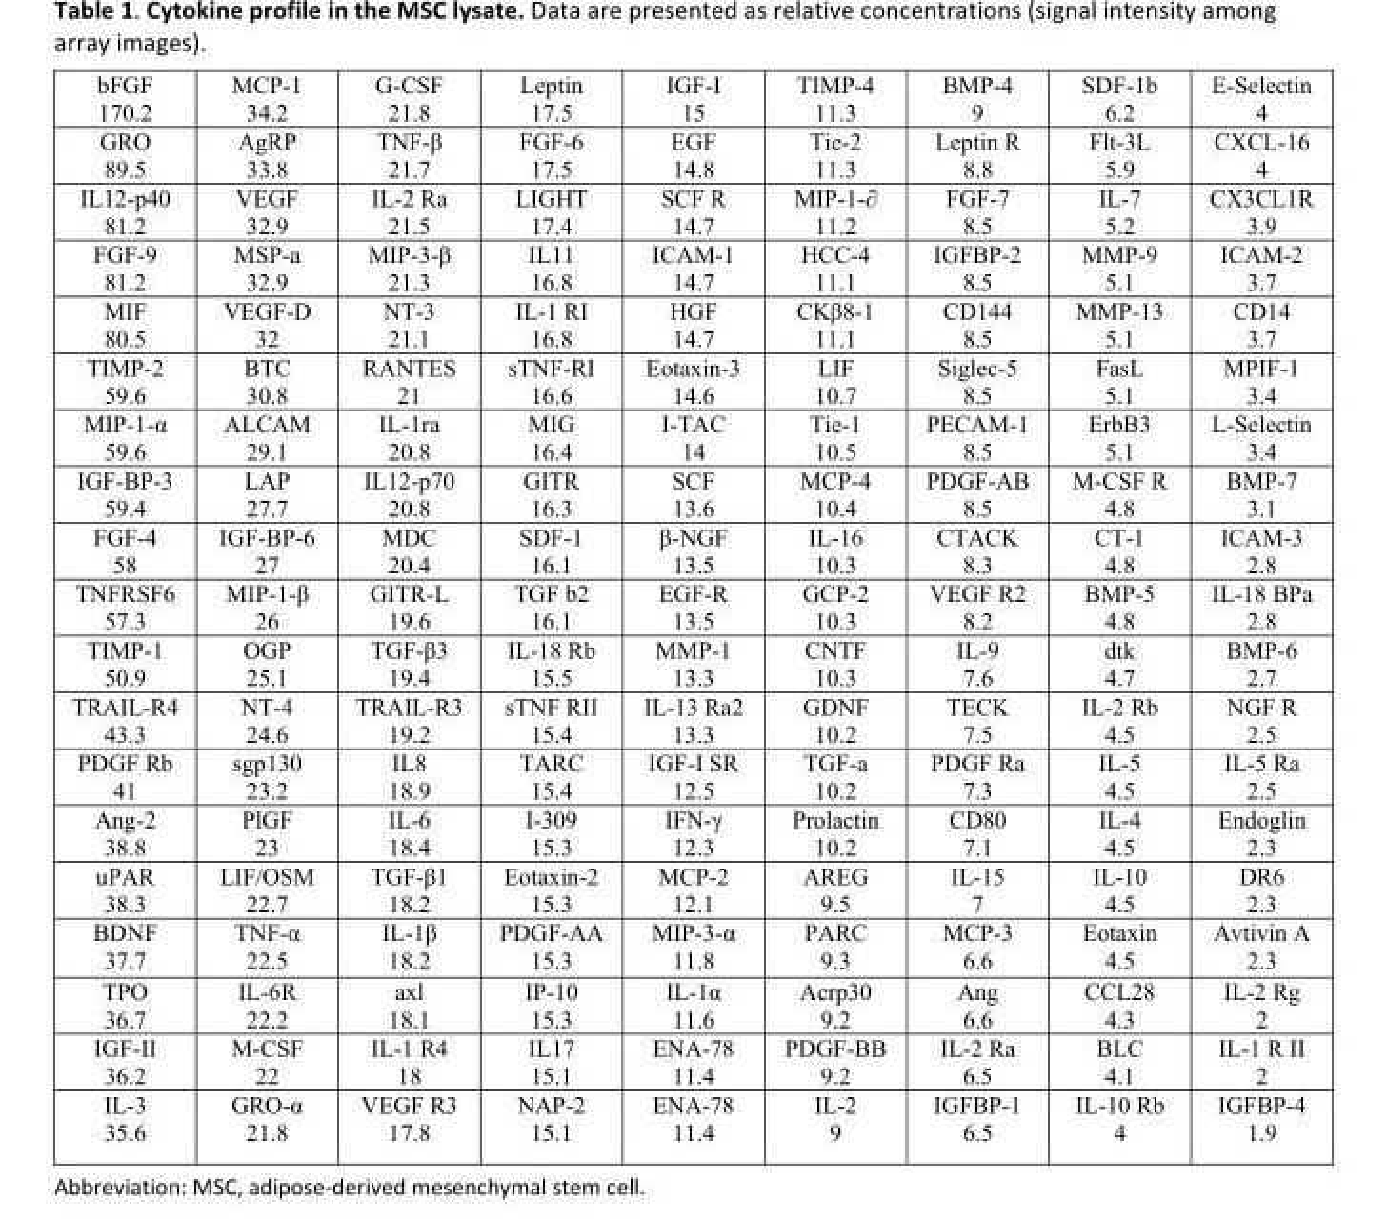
<table><tbody><tr><td>bFGF 170.2</td><td>MCP-1 34.2</td><td>G-CSF 21.8</td><td>Leptin 17.5</td><td>IGF-I 15</td><td>TIMP-4 11.3</td><td>BMP-4 9</td><td>SDF-1b 6.2</td><td>E-Selectin 4</td></tr><tr><td>GRO 89.5</td><td>AgRP 33.8</td><td>TNF-β 21.7</td><td>FGF-6 17.5</td><td>EGF 14.8</td><td>Tie-2 11.3</td><td>Leptin R 8.8</td><td>Flt-3L 5.9</td><td>CXCL-16 4</td></tr><tr><td>IL12-p40 81.2</td><td>VEGF 32.9</td><td>IL-2 Ra 21.5</td><td>LIGHT 17.4</td><td>SCF R 14.7</td><td>MIP-1-∂ 11.2</td><td>FGF-7 8.5</td><td>IL-7 5.2</td><td>CX3CL1R 3.9</td></tr><tr><td>FGF-9 81.2</td><td>MSP-a 32.9</td><td>MIP-3-β 21.3</td><td>IL11 16.8</td><td>ICAM-1 14.7</td><td>HCC-4 11.1</td><td>IGFBP-2 8.5</td><td>MMP-9 5.1</td><td>ICAM-2 3.7</td></tr><tr><td>MIF 80.5</td><td>VEGF-D 32</td><td>NT-3 21.1</td><td>IL-1 RI 16.8</td><td>HGF 14.7</td><td>CKβ8-1 11.1</td><td>CD144 8.5</td><td>MMP-13 5.1</td><td>CD14 3.7</td></tr><tr><td>TIMP-2 59.6</td><td>BTC 30.8</td><td>RANTES 21</td><td>sTNF-RI 16.6</td><td>Eotaxin-3 14.6</td><td>LIF 10.7</td><td>Siglec-5 8.5</td><td>FasL 5.1</td><td>MPIF-1 3.4</td></tr><tr><td>MIP-1-α 59.6</td><td>ALCAM 29.1</td><td>IL-1ra 20.8</td><td>MIG 16.4</td><td>I-TAC 14</td><td>Tie-1 10.5</td><td>PECAM-1 8.5</td><td>ErbB3 5.1</td><td>L-Selectin 3.4</td></tr><tr><td>IGF-BP-3 59.4</td><td>LAP 27.7</td><td>IL12-p70 20.8</td><td>GITR 16.3</td><td>SCF 13.6</td><td>MCP-4 10.4</td><td>PDGF-AB 8.5</td><td>M-CSF R 4.8</td><td>BMP-7 3.1</td></tr><tr><td>FGF-4 58</td><td>IGF-BP-6 27</td><td>MDC 20.4</td><td>SDF-1 16.1</td><td>β-NGF 13.5</td><td>IL-16 10.3</td><td>CTACK 8.3</td><td>CT-1 4.8</td><td>ICAM-3 2.8</td></tr><tr><td>TNFRSF6 57.3</td><td>MIP-1-β 26</td><td>GITR-L 19.6</td><td>TGF b2 16.1</td><td>EGF-R 13.5</td><td>GCP-2 10.3</td><td>VEGF R2 8.2</td><td>BMP-5 4.8</td><td>IL-18 BPa 2.8</td></tr><tr><td>TIMP-1 50.9</td><td>OGP 25.1</td><td>TGF-β3 19.4</td><td>IL-18 Rb 15.5</td><td>MMP-1 13.3</td><td>CNTF 10.3</td><td>IL-9 7.6</td><td>dtk 4.7</td><td>BMP-6 2.7</td></tr><tr><td>TRAIL-R4 43.3</td><td>NT-4 24.6</td><td>TRAIL-R3 19.2</td><td>sTNF RII 15.4</td><td>IL-13 Ra2 13.3</td><td>GDNF 10.2</td><td>TECK 7.5</td><td>IL-2 Rb 4.5</td><td>NGF R 2.5</td></tr><tr><td>PDGF Rb 41</td><td>sgp130 23.2</td><td>IL8 18.9</td><td>TARC 15.4</td><td>IGF-I SR 12.5</td><td>TGF-a 10.2</td><td>PDGF Ra 7.3</td><td>IL-5 4.5</td><td>IL-5 Ra 2.5</td></tr><tr><td>Ang-2 38.8</td><td>PlGF 23</td><td>IL-6 18.4</td><td>I-309 15.3</td><td>IFN-γ 12.3</td><td>Prolactin 10.2</td><td>CD80 7.1</td><td>IL-4 4.5</td><td>Endoglin 2.3</td></tr><tr><td>uPAR 38.3</td><td>LIF/OSM 22.7</td><td>TGF-β1 18.2</td><td>Eotaxin-2 15.3</td><td>MCP-2 12.1</td><td>AREG 9.5</td><td>IL-15 7</td><td>IL-10 4.5</td><td>DR6 2.3</td></tr><tr><td>BDNF 37.7</td><td>TNF-α 22.5</td><td>IL-1β 18.2</td><td>PDGF-AA 15.3</td><td>MIP-3-α 11.8</td><td>PARC 9.3</td><td>MCP-3 6.6</td><td>Eotaxin 4.5</td><td>Avtivin A 2.3</td></tr><tr><td>TPO 36.7</td><td>IL-6R 22.2</td><td>axl 18.1</td><td>IP-10 15.3</td><td>IL-1α 11.6</td><td>Acrp30 9.2</td><td>Ang 6.6</td><td>CCL28 4.3</td><td>IL-2 Rg 2</td></tr><tr><td>IGF-II 36.2</td><td>M-CSF 22</td><td>IL-1 R4 18</td><td>IL17 15.1</td><td>ENA-78 11.4</td><td>PDGF-BB 9.2</td><td>IL-2 Ra 6.5</td><td>BLC 4.1</td><td>IL-1 R II 2</td></tr><tr><td>IL-3 35.6</td><td>GRO-α 21.8</td><td>VEGF R3 17.8</td><td>NAP-2 15.1</td><td>ENA-78 11.4</td><td>IL-2 9</td><td>IGFBP-1 6.5</td><td>IL-10 Rb 4</td><td>IGFBP-4 1.9</td></tr></tbody></table>